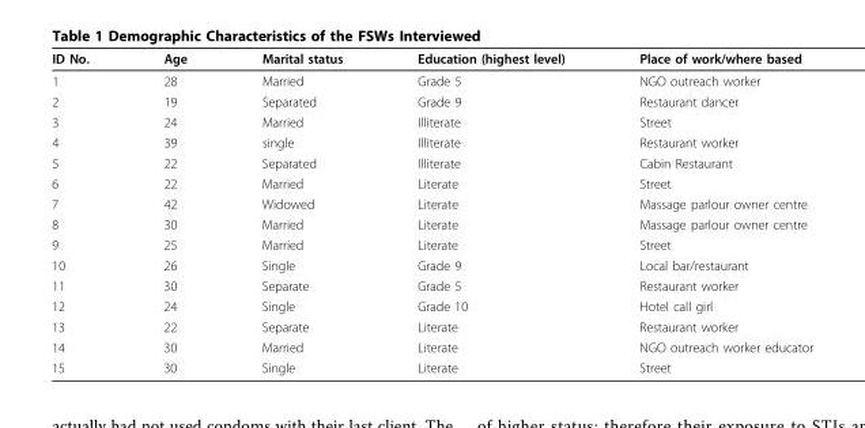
<table><thead><tr><td>ID No.</td><td>Age</td><td>Marital status</td><td>Education (highest level)</td><td>Place of work/where based</td></tr></thead><tbody><tr><td>1</td><td>28</td><td>Married</td><td>Grade 5</td><td>NGO outreach worker</td></tr><tr><td>2</td><td>19</td><td>Separated</td><td>Grade 9</td><td>Restaurant dancer</td></tr><tr><td>3</td><td>24</td><td>Married</td><td>Illiterate</td><td>Street</td></tr><tr><td>4</td><td>39</td><td>single</td><td>Illiterate</td><td>Restaurant worker</td></tr><tr><td>5</td><td>22</td><td>Separated</td><td>Illiterate</td><td>Cabin Restaurant</td></tr><tr><td>6</td><td>22</td><td>Married</td><td>Literate</td><td>Street</td></tr><tr><td>7</td><td>42</td><td>Widowed</td><td>Literate</td><td>Massage parlour owner centre</td></tr><tr><td>8</td><td>30</td><td>Married</td><td>Literate</td><td>Massage parlour owner centre</td></tr><tr><td>9</td><td>25</td><td>Married</td><td>Literate</td><td>Street</td></tr><tr><td>10</td><td>26</td><td>Single</td><td>Grade 9</td><td>Local bar/restaurant</td></tr><tr><td>11</td><td>30</td><td>Separate</td><td>Grade 5</td><td>Restaurant worker</td></tr><tr><td>12</td><td>24</td><td>Single</td><td>Grade 10</td><td>Hotel call girl</td></tr><tr><td>13</td><td>22</td><td>Separate</td><td>Literate</td><td>Restaurant worker</td></tr><tr><td>14</td><td>30</td><td>Married</td><td>Literate</td><td>NGO outreach worker educator</td></tr><tr><td>15</td><td>30</td><td>Single</td><td>Literate</td><td>Street</td></tr></tbody></table>